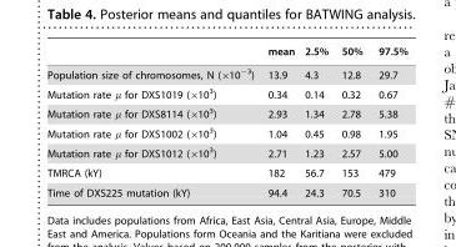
<table><thead><tr><td></td><td>mean</td><td>2.5%</td><td>50%</td><td>97.5%</td></tr></thead><tbody><tr><td>Population size of chromosomes, N (×10<sup>−3</sup>)</td><td>13.9</td><td>4.3</td><td>12.8</td><td>29.7</td></tr><tr><td>Mutation rate μ for DXS1019 (×10<sup>3</sup>)</td><td>0.34</td><td>0.14</td><td>0.32</td><td>0.67</td></tr><tr><td>Mutation rate μ for DXS8114 (×10<sup>3</sup>)</td><td>2.93</td><td>1.34</td><td>2.78</td><td>5.38</td></tr><tr><td>Mutation rate μ for DXS1002 (×10<sup>3</sup>)</td><td>1.04</td><td>0.45</td><td>0.98</td><td>1.95</td></tr><tr><td>Mutation rate μ for DXS1012 (×10<sup>3</sup>)</td><td>2.71</td><td>1.23</td><td>2.57</td><td>5.00</td></tr><tr><td>TMRCA (kY)</td><td>182</td><td>56.7</td><td>153</td><td>479</td></tr><tr><td>Time of DXS225 mutation (kY)</td><td>94.4</td><td>24.3</td><td>70.5</td><td>310</td></tr></tbody></table>